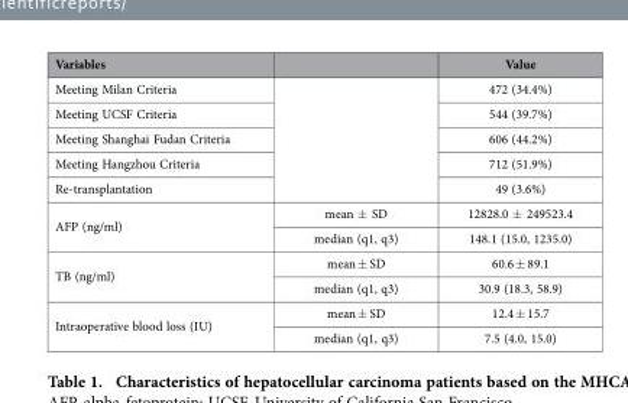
<table><thead><tr><td>Variables</td><td></td><td>Value</td></tr></thead><tbody><tr><td>Meeting Milan Criteria</td><td rowspan="5"></td><td>472 (34.4%)</td></tr><tr><td>Meeting UCSF Criteria</td><td>544 (39.7%)</td></tr><tr><td>Meeting Shanghai Fudan Criteria</td><td>606 (44.2%)</td></tr><tr><td>Meeting Hangzhou Criteria</td><td>712 (51.9%)</td></tr><tr><td>Re-transplantation</td><td>49 (3.6%)</td></tr><tr><td rowspan="2">AFP (ng/ml)</td><td>mean ± SD</td><td>12828.0 ± 249523.4</td></tr><tr><td>median (q1, q3)</td><td>148.1 (15.0, 1235.0)</td></tr><tr><td rowspan="2">TB (ng/ml)</td><td>mean ± SD</td><td>60.6 ± 89.1</td></tr><tr><td>median (q1, q3)</td><td>30.9 (18.3, 58.9)</td></tr><tr><td rowspan="2">Intraoperative blood loss (IU)</td><td>mean ± SD</td><td>12.4 ± 15.7</td></tr><tr><td>median (q1, q3)</td><td>7.5 (4.0, 15.0)</td></tr></tbody></table>